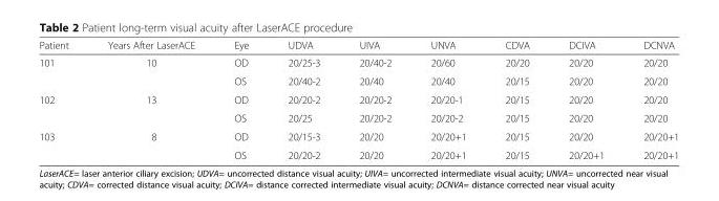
<table><thead><tr><td>Patient</td><td>Years After LaserACE</td><td>Eye</td><td>UDVA</td><td>UIVA</td><td>UNVA</td><td>CDVA</td><td>DCIVA</td><td>DCNVA</td></tr></thead><tbody><tr><td rowspan="2">101</td><td rowspan="2">10</td><td>OD</td><td>20/25-3</td><td>20/40-2</td><td>20/60</td><td>20/20</td><td>20/20</td><td>20/20</td></tr><tr><td>OS</td><td>20/40-2</td><td>20/40</td><td>20/40</td><td>20/15</td><td>20/20</td><td>20/20</td></tr><tr><td rowspan="2">102</td><td rowspan="2">13</td><td>OD</td><td>20/20-2</td><td>20/20-2</td><td>20/20-1</td><td>20/15</td><td>20/20</td><td>20/20</td></tr><tr><td>OS</td><td>20/25</td><td>20/20-2</td><td>20/20-2</td><td>20/15</td><td>20/20</td><td>20/20</td></tr><tr><td rowspan="2">103</td><td rowspan="2">8</td><td>OD</td><td>20/15-3</td><td>20/20</td><td>20/20+1</td><td>20/15</td><td>20/20</td><td>20/20+1</td></tr><tr><td>OS</td><td>20/20-2</td><td>20/20</td><td>20/20+1</td><td>20/15</td><td>20/20+1</td><td>20/20+1</td></tr></tbody></table>